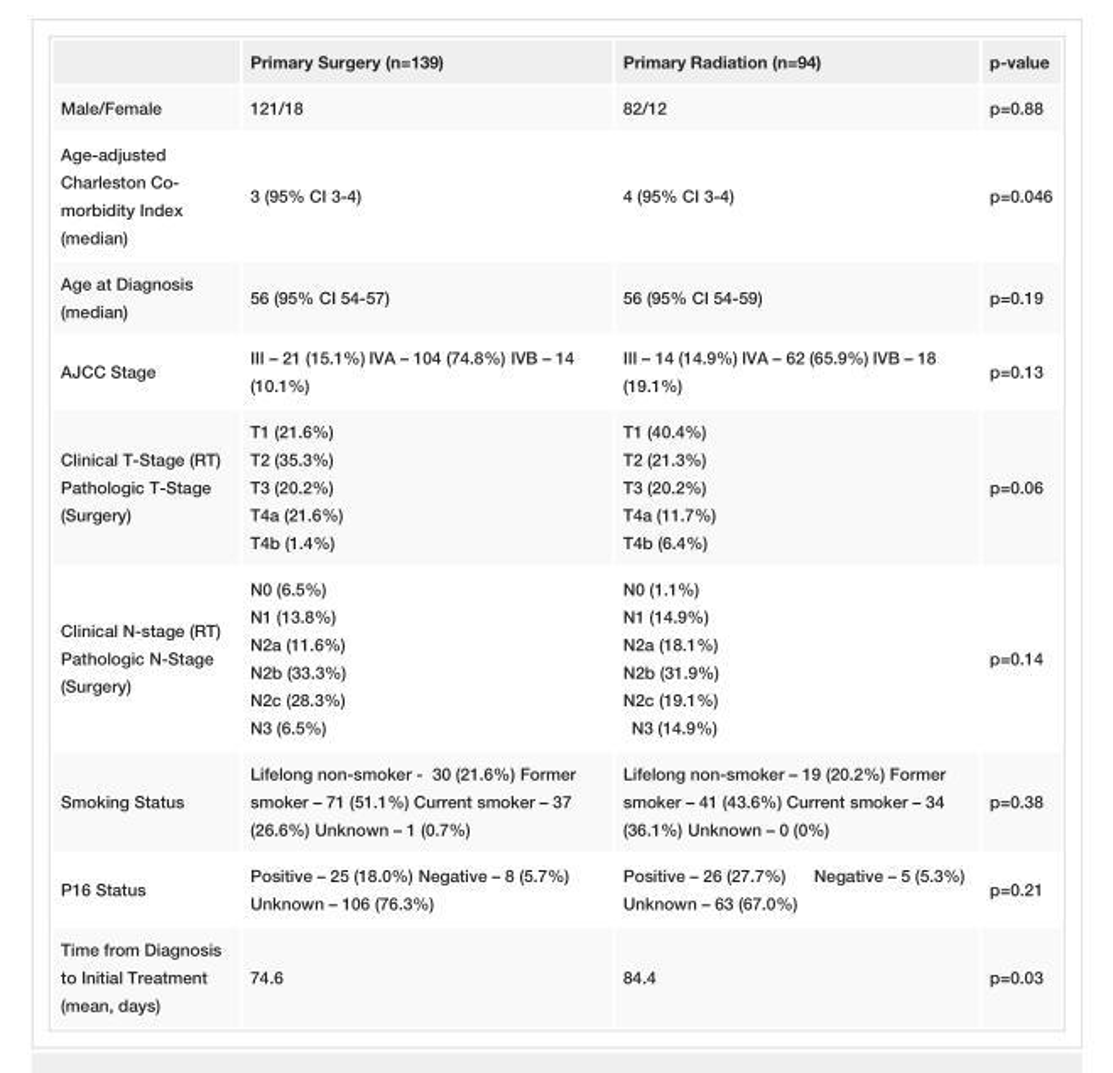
<table><thead><tr><td></td><td>Primary Surgery (n=139)</td><td>Primary Radiation (n=94)</td><td>p-value</td></tr></thead><tbody><tr><td>Male/Female</td><td>121/18</td><td>82/12</td><td>p=0.88</td></tr><tr><td>Age-adjusted Charleston Co- morbidity Index (median)</td><td>3 (95% CI 3-4)</td><td>4 (95% CI 3-4)</td><td>p=0.046</td></tr><tr><td>Age at Diagnosis (median)</td><td>56 (95% CI 54-57)</td><td>56 (95% CI 54-59)</td><td>p=0.19</td></tr><tr><td>AJCC Stage</td><td>III – 21 (15.1%) IVA – 104 (74.8%) IVB – 14 (10.1%)</td><td>III – 14 (14.9%) IVA – 62 (65.9%) IVB – 18 (19.1%)</td><td>p=0.13</td></tr><tr><td>Clinical T-Stage (RT) Pathologic T-Stage (Surgery)</td><td>T1 (21.6%) T2 (35.3%) T3 (20.2%) T4a (21.6%) T4b (1.4%)</td><td>T1 (40.4%) T2 (21.3%) T3 (20.2%) T4a (11.7%) T4b (6.4%)</td><td>p=0.06</td></tr><tr><td>Clinical N-stage (RT) Pathologic N-Stage (Surgery)</td><td>N0 (6.5%) N1 (13.8%) N2a (11.6%) N2b (33.3%) N2c (28.3%) N3 (6.5%)</td><td>N0 (1.1%) N1 (14.9%) N2a (18.1%) N2b (31.9%) N2c (19.1%) N3 (14.9%)</td><td>p=0.14</td></tr><tr><td>Smoking Status</td><td>Lifelong non-smoker - 30 (21.6%) Former smoker – 71 (51.1%) Current smoker – 37 (26.6%) Unknown – 1 (0.7%)</td><td>Lifelong non-smoker – 19 (20.2%) Former smoker – 41 (43.6%) Current smoker – 34 (36.1%) Unknown – 0 (0%)</td><td>p=0.38</td></tr><tr><td>P16 Status</td><td>Positive – 25 (18.0%) Negative – 8 (5.7%) Unknown – 106 (76.3%)</td><td>Positive – 26 (27.7%) Negative – 5 (5.3%) Unknown – 63 (67.0%)</td><td>p=0.21</td></tr><tr><td>Time from Diagnosis to Initial Treatment (mean, days)</td><td>74.6</td><td>84.4</td><td>p=0.03</td></tr></tbody></table>